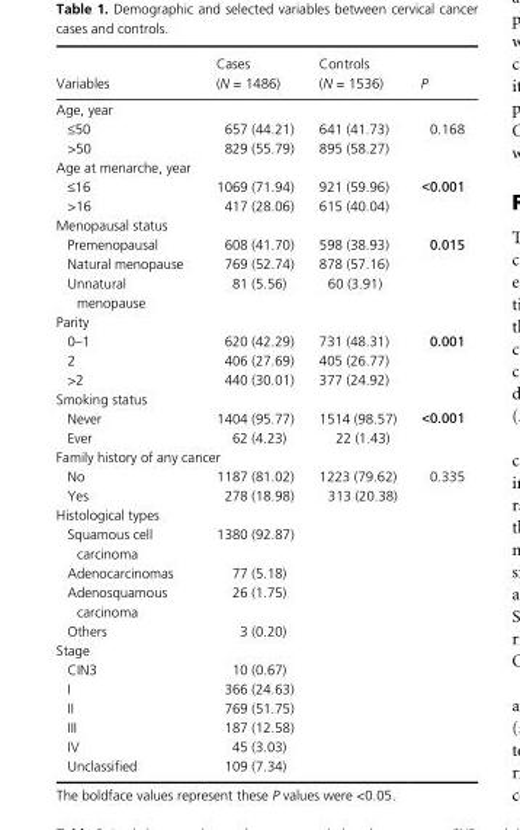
<table><thead><tr><td>Variables</td><td>Cases (N = 1486)</td><td>Controls (N = 1536)</td><td>P</td></tr></thead><tbody><tr><td colspan="4">Age, year</td></tr><tr><td>≤50</td><td>657 (44.21)</td><td>641 (41.73)</td><td rowspan="2">0.168</td></tr><tr><td>&gt;50</td><td>829 (55.79)</td><td>895 (58.27)</td></tr><tr><td colspan="4">Age at menarche, year</td></tr><tr><td>≤16</td><td>1069 (71.94)</td><td>921 (59.96)</td><td rowspan="2">&lt;0.001</td></tr><tr><td>&gt;16</td><td>417 (28.06)</td><td>615 (40.04)</td></tr><tr><td colspan="4">Menopausal status</td></tr><tr><td>Premenopausal</td><td>608 (41.70)</td><td>598 (38.93)</td><td rowspan="3">0.015</td></tr><tr><td>Natural menopause</td><td>769 (52.74)</td><td>878 (57.16)</td></tr><tr><td>Unnatural menopause</td><td>81 (5.56)</td><td>60 (3.91)</td></tr><tr><td colspan="4">Parity</td></tr><tr><td>0–1</td><td>620 (42.29)</td><td>731 (48.31)</td><td rowspan="3">0.001</td></tr><tr><td>2</td><td>406 (27.69)</td><td>405 (26.77)</td></tr><tr><td>&gt;2</td><td>440 (30.01)</td><td>377 (24.92)</td></tr><tr><td colspan="4">Smoking status</td></tr><tr><td>Never</td><td>1404 (95.77)</td><td>1514 (98.57)</td><td rowspan="2">&lt;0.001</td></tr><tr><td>Ever</td><td>62 (4.23)</td><td>22 (1.43)</td></tr><tr><td colspan="4">Family history of any cancer</td></tr><tr><td>No</td><td>1187 (81.02)</td><td>1223 (79.62)</td><td rowspan="2">0.335</td></tr><tr><td>Yes</td><td>278 (18.98)</td><td>313 (20.38)</td></tr><tr><td colspan="4">Histological types</td></tr><tr><td>Squamous cell carcinoma</td><td>1380 (92.87)</td><td></td><td></td></tr><tr><td>Adenocarcinomas</td><td>77 (5.18)</td><td></td><td></td></tr><tr><td>Adenosquamous carcinoma</td><td>26 (1.75)</td><td></td><td></td></tr><tr><td>Others</td><td>3 (0.20)</td><td></td><td></td></tr><tr><td colspan="4">Stage</td></tr><tr><td>CIN3</td><td>10 (0.67)</td><td></td><td></td></tr><tr><td>I</td><td>366 (24.63)</td><td></td><td></td></tr><tr><td>II</td><td>769 (51.75)</td><td></td><td></td></tr><tr><td>III</td><td>187 (12.58)</td><td></td><td></td></tr><tr><td>IV</td><td>45 (3.03)</td><td></td><td></td></tr><tr><td>Unclassified</td><td>109 (7.34)</td><td></td><td></td></tr></tbody></table>